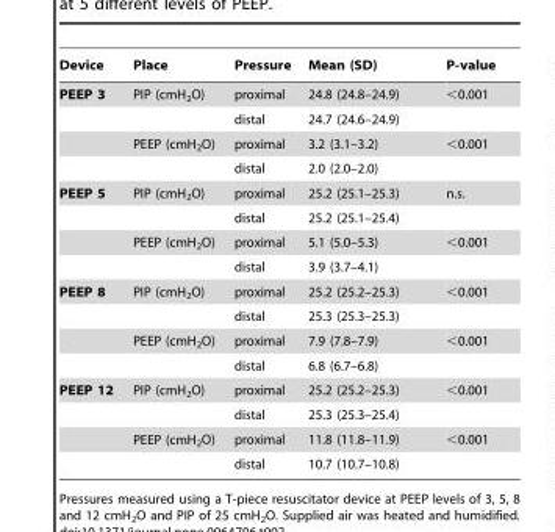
<table><thead><tr><td>Device</td><td>Place</td><td>Pressure</td><td>Mean (SD)</td><td>P-value</td></tr></thead><tbody><tr><td rowspan="4">PEEP 3</td><td>PIP (cmH<sub>2</sub>O)</td><td>proximal</td><td>24.8 (24.8–24.9)</td><td>&lt;0.001</td></tr><tr><td></td><td>distal</td><td>24.7 (24.6–24.9)</td><td></td></tr><tr><td>PEEP (cmH<sub>2</sub>O)</td><td>proximal</td><td>3.2 (3.1–3.2)</td><td>&lt;0.001</td></tr><tr><td></td><td>distal</td><td>2.0 (2.0–2.0)</td><td></td></tr><tr><td rowspan="4">PEEP 5</td><td>PIP (cmH<sub>2</sub>O)</td><td>proximal</td><td>25.2 (25.1–25.3)</td><td>n.s.</td></tr><tr><td></td><td>distal</td><td>25.2 (25.1–25.4)</td><td></td></tr><tr><td>PEEP (cmH<sub>2</sub>O)</td><td>proximal</td><td>5.1 (5.0–5.3)</td><td>&lt;0.001</td></tr><tr><td></td><td>distal</td><td>3.9 (3.7–4.1)</td><td></td></tr><tr><td rowspan="4">PEEP 8</td><td>PIP (cmH<sub>2</sub>O)</td><td>proximal</td><td>25.2 (25.2–25.3)</td><td>&lt;0.001</td></tr><tr><td></td><td>distal</td><td>25.3 (25.3–25.3)</td><td></td></tr><tr><td>PEEP (cmH<sub>2</sub>O)</td><td>proximal</td><td>7.9 (7.8–7.9)</td><td>&lt;0.001</td></tr><tr><td></td><td>distal</td><td>6.8 (6.7–6.8)</td><td></td></tr><tr><td rowspan="4">PEEP 12</td><td>PIP (cmH<sub>2</sub>O)</td><td>proximal</td><td>25.2 (25.2–25.3)</td><td>&lt;0.001</td></tr><tr><td></td><td>distal</td><td>25.3 (25.3–25.4)</td><td></td></tr><tr><td>PEEP (cmH<sub>2</sub>O)</td><td>proximal</td><td>11.8 (11.8–11.9)</td><td>&lt;0.001</td></tr><tr><td></td><td>distal</td><td>10.7 (10.7–10.8)</td><td></td></tr></tbody></table>